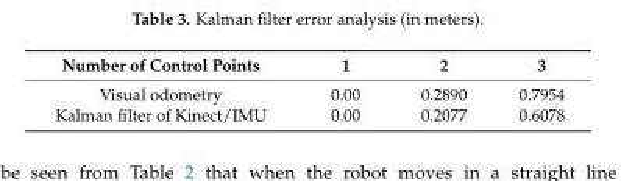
<table><thead><tr><td>Number of Control Points</td><td>1</td><td>2</td><td>3</td></tr></thead><tbody><tr><td>Visual odometry</td><td>0.00</td><td>0.2890</td><td>0.7954</td></tr><tr><td>Kalman filter of Kinect/IMU</td><td>0.00</td><td>0.2077</td><td>0.6078</td></tr></tbody></table>